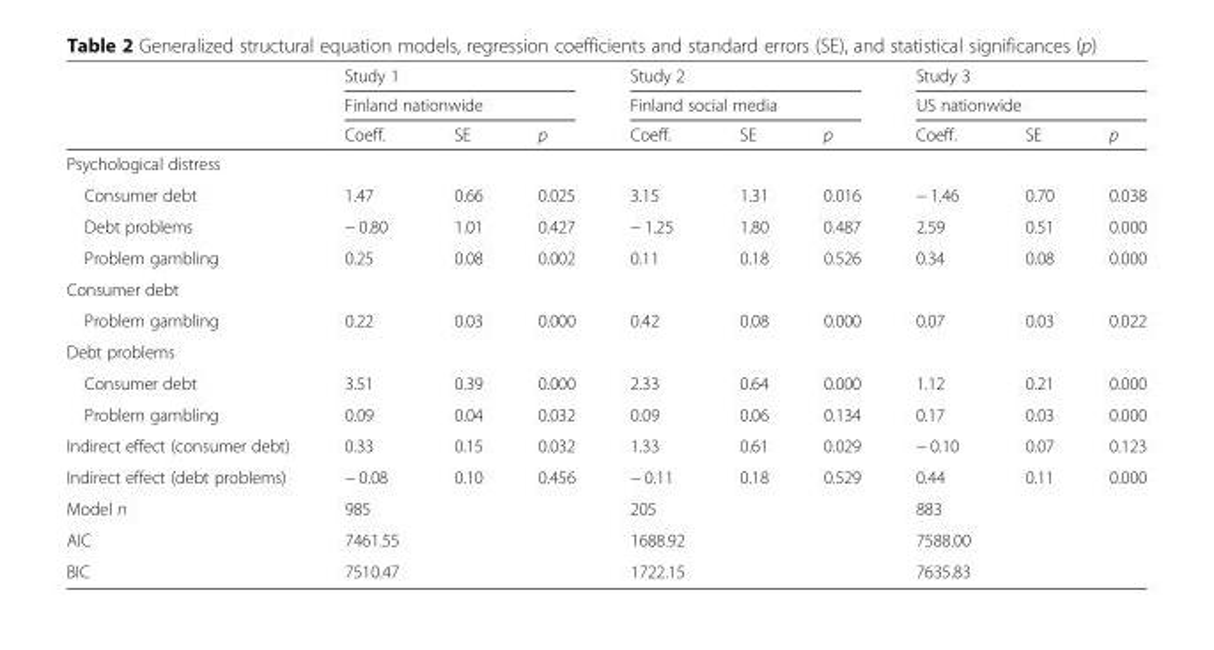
<table><thead><tr><td rowspan="3"></td><td rowspan="2" colspan="3">Study 1 Finland nationwide</td><td rowspan="2" colspan="3">Study 2 Finland social media</td><td rowspan="2" colspan="3">Study 3 US nationwide</td></tr><tr></tr><tr><td>Coeff.</td><td>SE</td><td>p</td><td>Coeff.</td><td>SE</td><td>p</td><td>Coeff.</td><td>SE</td><td>p</td></tr></thead><tbody><tr><td colspan="10">Psychological distress</td></tr><tr><td>Consumer debt</td><td>1.47</td><td>0.66</td><td>0.025</td><td>3.15</td><td>1.31</td><td>0.016</td><td>− 1.46</td><td>0.70</td><td>0.038</td></tr><tr><td>Debt problems</td><td>− 0.80</td><td>1.01</td><td>0.427</td><td>− 1.25</td><td>1.80</td><td>0.487</td><td>2.59</td><td>0.51</td><td>0.000</td></tr><tr><td>Problem gambling</td><td>0.25</td><td>0.08</td><td>0.002</td><td>0.11</td><td>0.18</td><td>0.526</td><td>0.34</td><td>0.08</td><td>0.000</td></tr><tr><td colspan="10">Consumer debt</td></tr><tr><td>Problem gambling</td><td>0.22</td><td>0.03</td><td>0.000</td><td>0.42</td><td>0.08</td><td>0.000</td><td>0.07</td><td>0.03</td><td>0.022</td></tr><tr><td colspan="10">Debt problems</td></tr><tr><td>Consumer debt</td><td>3.51</td><td>0.39</td><td>0.000</td><td>2.33</td><td>0.64</td><td>0.000</td><td>1.12</td><td>0.21</td><td>0.000</td></tr><tr><td>Problem gambling</td><td>0.09</td><td>0.04</td><td>0.032</td><td>0.09</td><td>0.06</td><td>0.134</td><td>0.17</td><td>0.03</td><td>0.000</td></tr><tr><td>Indirect effect (consumer debt)</td><td>0.33</td><td>0.15</td><td>0.032</td><td>1.33</td><td>0.61</td><td>0.029</td><td>− 0.10</td><td>0.07</td><td>0.123</td></tr><tr><td>Indirect effect (debt problems)</td><td>− 0.08</td><td>0.10</td><td>0.456</td><td>− 0.11</td><td>0.18</td><td>0.529</td><td>0.44</td><td>0.11</td><td>0.000</td></tr><tr><td>Model n</td><td>985</td><td></td><td></td><td>205</td><td></td><td></td><td>883</td><td></td><td></td></tr><tr><td>AIC</td><td>7461.55</td><td></td><td></td><td>1688.92</td><td></td><td></td><td>7588.00</td><td></td><td></td></tr><tr><td>BIC</td><td>7510.47</td><td></td><td></td><td>1722.15</td><td></td><td></td><td>7635.83</td><td></td><td></td></tr></tbody></table>